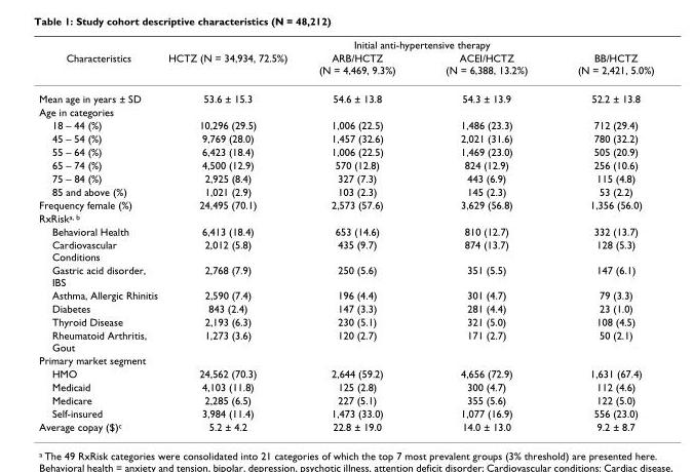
<table><thead><tr><td rowspan="2">Characteristics</td><td colspan="4">Initial anti-hypertensive therapy</td></tr><tr><td>HCTZ (N = 34,934, 72.5%)</td><td>ARB/HCTZ (N = 4,469, 9.3%)</td><td>ACEI/HCTZ (N = 6,388, 13.2%)</td><td>BB/HCTZ (N = 2,421, 5.0%)</td></tr></thead><tbody><tr><td>Mean age in years ± SD</td><td>53.6 ± 15.3</td><td>54.6 ± 13.8</td><td>54.3 ± 13.9</td><td>52.2 ± 13.8</td></tr><tr><td colspan="5">Age in categories</td></tr><tr><td>18 – 44 (%)</td><td>10,296 (29.5)</td><td>1,006 (22.5)</td><td>1,486 (23.3)</td><td>712 (29.4)</td></tr><tr><td>45 – 54 (%)</td><td>9,769 (28.0)</td><td>1,457 (32.6)</td><td>2,021 (31.6)</td><td>780 (32.2)</td></tr><tr><td>55 – 64 (%)</td><td>6,423 (18.4)</td><td>1,006 (22.5)</td><td>1,469 (23.0)</td><td>505 (20.9)</td></tr><tr><td>65 – 74 (%)</td><td>4,500 (12.9)</td><td>570 (12.8)</td><td>824 (12.9)</td><td>256 (10.6)</td></tr><tr><td>75 – 84 (%)</td><td>2,925 (8.4)</td><td>327 (7.3)</td><td>443 (6.9)</td><td>115 (4.8)</td></tr><tr><td>85 and above (%)</td><td>1,021 (2.9)</td><td>103 (2.3)</td><td>145 (2.3)</td><td>53 (2.2)</td></tr><tr><td>Frequency female (%)</td><td>24,495 (70.1)</td><td>2,573 (57.6)</td><td>3,629 (56.8)</td><td>1,356 (56.0)</td></tr><tr><td colspan="5">RxRisk<sup>a, b</sup></td></tr><tr><td>Behavioral Health</td><td>6,413 (18.4)</td><td>653 (14.6)</td><td>810 (12.7)</td><td>332 (13.7)</td></tr><tr><td>Cardiovascular Conditions</td><td>2,012 (5.8)</td><td>435 (9.7)</td><td>874 (13.7)</td><td>128 (5.3)</td></tr><tr><td>Gastric acid disorder, IBS</td><td>2,768 (7.9)</td><td>250 (5.6)</td><td>351 (5.5)</td><td>147 (6.1)</td></tr><tr><td>Asthma, Allergic Rhinitis</td><td>2,590 (7.4)</td><td>196 (4.4)</td><td>301 (4.7)</td><td>79 (3.3)</td></tr><tr><td>Diabetes</td><td>843 (2.4)</td><td>147 (3.3)</td><td>281 (4.4)</td><td>23 (1.0)</td></tr><tr><td>Thyroid Disease</td><td>2,193 (6.3)</td><td>230 (5.1)</td><td>321 (5.0)</td><td>108 (4.5)</td></tr><tr><td>Rheumatoid Arthritis, Gout</td><td>1,273 (3.6)</td><td>120 (2.7)</td><td>171 (2.7)</td><td>50 (2.1)</td></tr><tr><td colspan="5">Primary market segment</td></tr><tr><td>HMO</td><td>24,562 (70.3)</td><td>2,644 (59.2)</td><td>4,656 (72.9)</td><td>1,631 (67.4)</td></tr><tr><td>Medicaid</td><td>4,103 (11.8)</td><td>125 (2.8)</td><td>300 (4.7)</td><td>112 (4.6)</td></tr><tr><td>Medicare</td><td>2,285 (6.5)</td><td>227 (5.1)</td><td>355 (5.6)</td><td>122 (5.0)</td></tr><tr><td>Self-insured</td><td>3,984 (11.4)</td><td>1,473 (33.0)</td><td>1,077 (16.9)</td><td>556 (23.0)</td></tr><tr><td>Average copay ($)<sup>c</sup></td><td>5.2 ± 4.2</td><td>22.8 ± 19.0</td><td>14.0 ± 13.0</td><td>9.2 ± 8.7</td></tr></tbody></table>